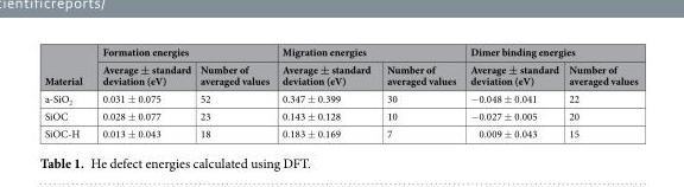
<table><thead><tr><td rowspan="2">Material</td><td colspan="2">Formation energies</td><td colspan="2">Migration energies</td><td colspan="2">Dimer binding energies</td></tr><tr><td>Average ± standard deviation (eV)</td><td>Number of averaged values</td><td>Average ± standard deviation (eV)</td><td>Number of averaged values</td><td>Average ± standard deviation (eV)</td><td>Number of averaged values</td></tr></thead><tbody><tr><td>a-SiO<sub>2</sub></td><td>0.031 ± 0.075</td><td>52</td><td>0.347 ± 0.399</td><td>30</td><td>−0.048 ± 0.041</td><td>22</td></tr><tr><td>SiOC</td><td>0.028 ± 0.077</td><td>23</td><td>0.143 ± 0.128</td><td>10</td><td>−0.027 ± 0.005</td><td>20</td></tr><tr><td>SiOC-H</td><td>0.013 ± 0.043</td><td>18</td><td>0.183 ± 0.169</td><td>7</td><td>0.009 ± 0.043</td><td>15</td></tr></tbody></table>